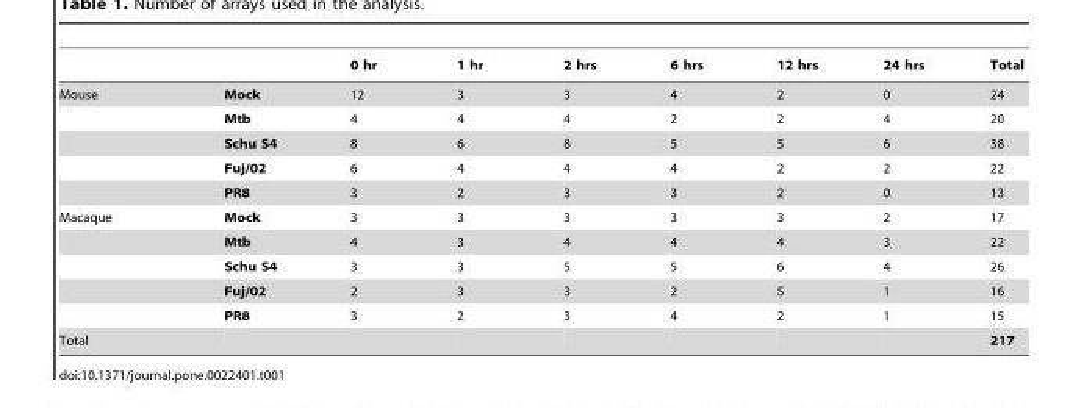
<table><thead><tr><td></td><td></td><td>0 hr</td><td>1 hr</td><td>2 hrs</td><td>6 hrs</td><td>12 hrs</td><td>24 hrs</td><td>Total</td></tr></thead><tbody><tr><td rowspan="5">Mouse</td><td>Mock</td><td>12</td><td>3</td><td>3</td><td>4</td><td>2</td><td>0</td><td>24</td></tr><tr><td>Mtb</td><td>4</td><td>4</td><td>4</td><td>2</td><td>2</td><td>4</td><td>20</td></tr><tr><td>Schu S4</td><td>8</td><td>6</td><td>8</td><td>5</td><td>5</td><td>6</td><td>38</td></tr><tr><td>Fuj/02</td><td>6</td><td>4</td><td>4</td><td>4</td><td>2</td><td>2</td><td>22</td></tr><tr><td>PR8</td><td>3</td><td>2</td><td>3</td><td>3</td><td>2</td><td>0</td><td>13</td></tr><tr><td rowspan="5">Macaque</td><td>Mock</td><td>3</td><td>3</td><td>3</td><td>3</td><td>3</td><td>2</td><td>17</td></tr><tr><td>Mtb</td><td>4</td><td>3</td><td>4</td><td>4</td><td>4</td><td>3</td><td>22</td></tr><tr><td>Schu S4</td><td>3</td><td>3</td><td>5</td><td>5</td><td>6</td><td>4</td><td>26</td></tr><tr><td>Fuj/02</td><td>2</td><td>3</td><td>3</td><td>2</td><td>5</td><td>1</td><td>16</td></tr><tr><td>PR8</td><td>3</td><td>2</td><td>3</td><td>4</td><td>2</td><td>1</td><td>15</td></tr><tr><td>Total</td><td></td><td></td><td></td><td></td><td></td><td></td><td></td><td>217</td></tr></tbody></table>